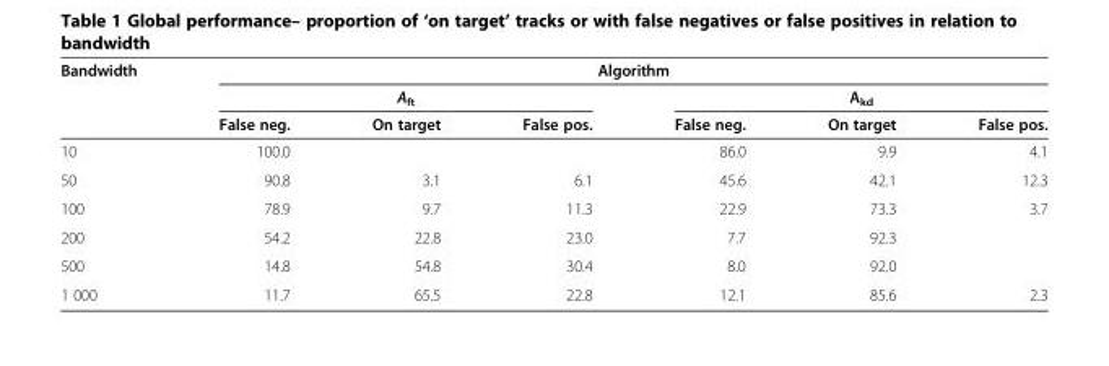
<table><thead><tr><td rowspan="3">Bandwidth</td><td colspan="6">Algorithm</td></tr><tr><td colspan="3">A<sub>ft</sub></td><td colspan="3">A<sub>kd</sub></td></tr><tr><td>False neg.</td><td>On target</td><td>False pos.</td><td>False neg.</td><td>On target</td><td>False pos.</td></tr></thead><tbody><tr><td>10</td><td>100.0</td><td></td><td></td><td>86.0</td><td>9.9</td><td>4.1</td></tr><tr><td>50</td><td>90.8</td><td>3.1</td><td>6.1</td><td>45.6</td><td>42.1</td><td>12.3</td></tr><tr><td>100</td><td>78.9</td><td>9.7</td><td>11.3</td><td>22.9</td><td>73.3</td><td>3.7</td></tr><tr><td>200</td><td>54.2</td><td>22.8</td><td>23.0</td><td>7.7</td><td>92.3</td><td></td></tr><tr><td>500</td><td>14.8</td><td>54.8</td><td>30.4</td><td>8.0</td><td>92.0</td><td></td></tr><tr><td>1 000</td><td>11.7</td><td>65.5</td><td>22.8</td><td>12.1</td><td>85.6</td><td>2.3</td></tr></tbody></table>